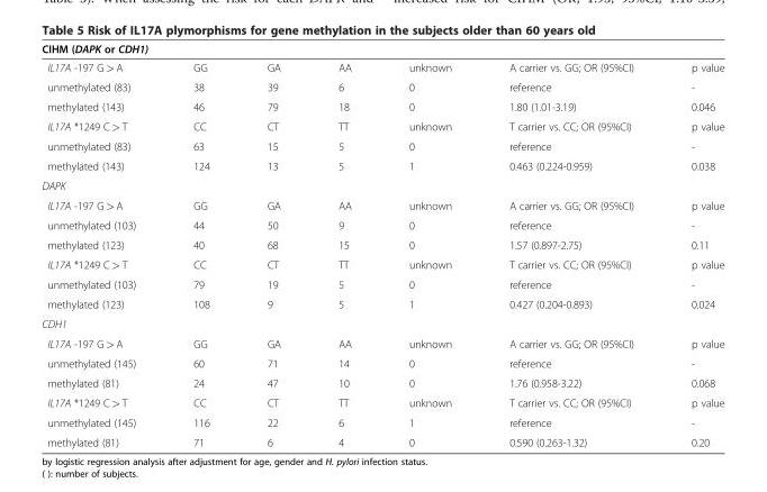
<table><thead><tr><td colspan="7">CIHM (DAPK or CDH1)</td></tr><tr><td>IL17A -197 G &gt; A</td><td>GG</td><td>GA</td><td>AA</td><td>unknown</td><td>A carrier vs. GG; OR (95%CI)</td><td>p value</td></tr></thead><tbody><tr><td>unmethylated (83)</td><td>38</td><td>39</td><td>6</td><td>0</td><td>reference</td><td>-</td></tr><tr><td>methylated (143)</td><td>46</td><td>79</td><td>18</td><td>0</td><td>1.80 (1.01-3.19)</td><td>0.046</td></tr><tr><td>IL17A *1249 C &gt; T</td><td>CC</td><td>CT</td><td>TT</td><td>unknown</td><td>T carrier vs. CC; OR (95%CI)</td><td>p value</td></tr><tr><td>unmethylated (83)</td><td>63</td><td>15</td><td>5</td><td>0</td><td>reference</td><td>-</td></tr><tr><td>methylated (143)</td><td>124</td><td>13</td><td>5</td><td>1</td><td>0.463 (0.224-0.959)</td><td>0.038</td></tr><tr><td colspan="7">DAPK</td></tr><tr><td>IL17A -197 G &gt; A</td><td>GG</td><td>GA</td><td>AA</td><td>unknown</td><td>A carrier vs. GG; OR (95%CI)</td><td>p value</td></tr><tr><td>unmethylated (103)</td><td>44</td><td>50</td><td>9</td><td>0</td><td>reference</td><td>-</td></tr><tr><td>methylated (123)</td><td>40</td><td>68</td><td>15</td><td>0</td><td>1.57 (0.897-2.75)</td><td>0.11</td></tr><tr><td>IL17A *1249 C &gt; T</td><td>CC</td><td>CT</td><td>TT</td><td>unknown</td><td>T carrier vs. CC; OR (95%CI)</td><td>p value</td></tr><tr><td>unmethylated (103)</td><td>79</td><td>19</td><td>5</td><td>0</td><td>reference</td><td>-</td></tr><tr><td>methylated (123)</td><td>108</td><td>9</td><td>5</td><td>1</td><td>0.427 (0.204-0.893)</td><td>0.024</td></tr><tr><td colspan="7">CDH1</td></tr><tr><td>IL17A -197 G &gt; A</td><td>GG</td><td>GA</td><td>AA</td><td>unknown</td><td>A carrier vs. GG; OR (95%CI)</td><td>p value</td></tr><tr><td>unmethylated (145)</td><td>60</td><td>71</td><td>14</td><td>0</td><td>reference</td><td>-</td></tr><tr><td>methylated (81)</td><td>24</td><td>47</td><td>10</td><td>0</td><td>1.76 (0.958-3.22)</td><td>0.068</td></tr><tr><td>IL17A *1249 C &gt; T</td><td>CC</td><td>CT</td><td>TT</td><td>unknown</td><td>T carrier vs. CC; OR (95%CI)</td><td>p value</td></tr><tr><td>unmethylated (145)</td><td>116</td><td>22</td><td>6</td><td>1</td><td>reference</td><td>-</td></tr><tr><td>methylated (81)</td><td>71</td><td>6</td><td>4</td><td>0</td><td>0.590 (0.263-1.32)</td><td>0.20</td></tr></tbody></table>